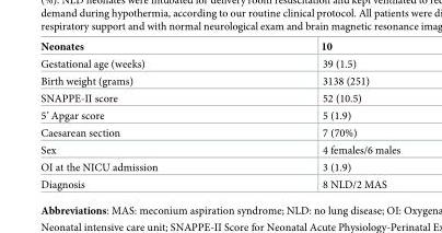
<table><thead><tr><td>Neonates</td><td>10</td></tr></thead><tbody><tr><td>Gestational age (weeks)</td><td>39 (1.5)</td></tr><tr><td>Birth weight (grams)</td><td>3138 (251)</td></tr><tr><td>SNAPPE-II score</td><td>52 (10.5)</td></tr><tr><td>5’ Apgar score</td><td>5 (1.9)</td></tr><tr><td>Caesarean section</td><td>7 (70%)</td></tr><tr><td>Sex</td><td>4 females/6 males</td></tr><tr><td>OI at the NICU admission</td><td>3 (1.9)</td></tr><tr><td>Diagnosis</td><td>8 NLD/2 MAS</td></tr></tbody></table>